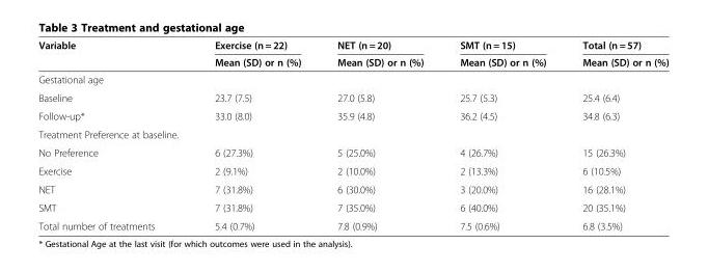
<table><thead><tr><td rowspan="2">Variable</td><td rowspan="2">Exercise (n = 22) Mean (SD) or n (%)</td><td rowspan="2">NET (n = 20) Mean (SD) or n (%)</td><td rowspan="2">SMT (n = 15) Mean (SD) or n (%)</td><td rowspan="2">Total (n = 57) Mean (SD) or n (%)</td></tr><tr></tr></thead><tbody><tr><td colspan="5">Gestational age</td></tr><tr><td>Baseline</td><td>23.7 (7.5)</td><td>27.0 (5.8)</td><td>25.7 (5.3)</td><td>25.4 (6.4)</td></tr><tr><td>Follow-up*</td><td>33.0 (8.0)</td><td>35.9 (4.8)</td><td>36.2 (4.5)</td><td>34.8 (6.3)</td></tr><tr><td colspan="5">Treatment Preference at baseline.</td></tr><tr><td>No Preference</td><td>6 (27.3%)</td><td>5 (25.0%)</td><td>4 (26.7%)</td><td>15 (26.3%)</td></tr><tr><td>Exercise</td><td>2 (9.1%)</td><td>2 (10.0%)</td><td>2 (13.3%)</td><td>6 (10.5%)</td></tr><tr><td>NET</td><td>7 (31.8%)</td><td>6 (30.0%)</td><td>3 (20.0%)</td><td>16 (28.1%)</td></tr><tr><td>SMT</td><td>7 (31.8%)</td><td>7 (35.0%)</td><td>6 (40.0%)</td><td>20 (35.1%)</td></tr><tr><td>Total number of treatments</td><td>5.4 (0.7%)</td><td>7.8 (0.9%)</td><td>7.5 (0.6%)</td><td>6.8 (3.5%)</td></tr></tbody></table>